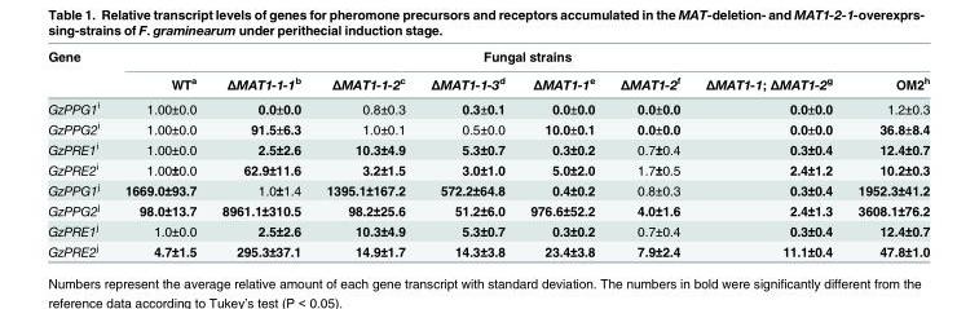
<table><thead><tr><td rowspan="2">Gene</td><td colspan="8">Fungal strains</td></tr><tr><td>WT<sup>a</sup></td><td>ΔMAT1-1-1<sup>b</sup></td><td>ΔMAT1-1-2<sup>c</sup></td><td>ΔMAT1-1-3<sup>d</sup></td><td>ΔMAT1-1<sup>e</sup></td><td>ΔMAT1-2<sup>f</sup></td><td>ΔMAT1-1; ΔMAT1-2<sup>g</sup></td><td>OM2<sup>h</sup></td></tr></thead><tbody><tr><td>GzPPG1<sup>i</sup></td><td>1.00±0.0</td><td>0.0±0.0</td><td>0.8±0.3</td><td>0.3±0.1</td><td>0.0±0.0</td><td>0.0±0.0</td><td>0.0±0.0</td><td>1.2±0.3</td></tr><tr><td>GzPPG2<sup>i</sup></td><td>1.00±0.0</td><td>91.5±6.3</td><td>1.0±0.1</td><td>0.5±0.0</td><td>10.0±0.1</td><td>0.0±0.0</td><td>0.0±0.0</td><td>36.8±8.4</td></tr><tr><td>GzPRE1<sup>i</sup></td><td>1.00±0.0</td><td>2.5±2.6</td><td>10.3±4.9</td><td>5.3±0.7</td><td>0.3±0.2</td><td>0.7±0.4</td><td>0.3±0.4</td><td>12.4±0.7</td></tr><tr><td>GzPRE2<sup>i</sup></td><td>1.00±0.0</td><td>62.9±11.6</td><td>3.2±1.5</td><td>3.0±1.0</td><td>5.0±2.0</td><td>1.7±0.5</td><td>2.4±1.2</td><td>10.2±0.3</td></tr><tr><td>GzPPG1<sup>j</sup></td><td>1669.0±93.7</td><td>1.0±1.4</td><td>1395.1±167.2</td><td>572.2±64.8</td><td>0.4±0.2</td><td>0.8±0.3</td><td>0.3±0.4</td><td>1952.3±41.2</td></tr><tr><td>GzPPG2<sup>j</sup></td><td>98.0±13.7</td><td>8961.1±310.5</td><td>98.2±25.6</td><td>51.2±6.0</td><td>976.6±52.2</td><td>4.0±1.6</td><td>2.4±1.3</td><td>3608.1±76.2</td></tr><tr><td>GzPRE1<sup>j</sup></td><td>1.0±0.0</td><td>2.5±2.6</td><td>10.3±4.9</td><td>5.3±0.7</td><td>0.3±0.2</td><td>0.7±0.4</td><td>0.3±0.4</td><td>12.4±0.7</td></tr><tr><td>GzPRE2<sup>j</sup></td><td>4.7±1.5</td><td>295.3±37.1</td><td>14.9±1.7</td><td>14.3±3.8</td><td>23.4±3.8</td><td>7.9±2.4</td><td>11.1±0.4</td><td>47.8±1.0</td></tr></tbody></table>